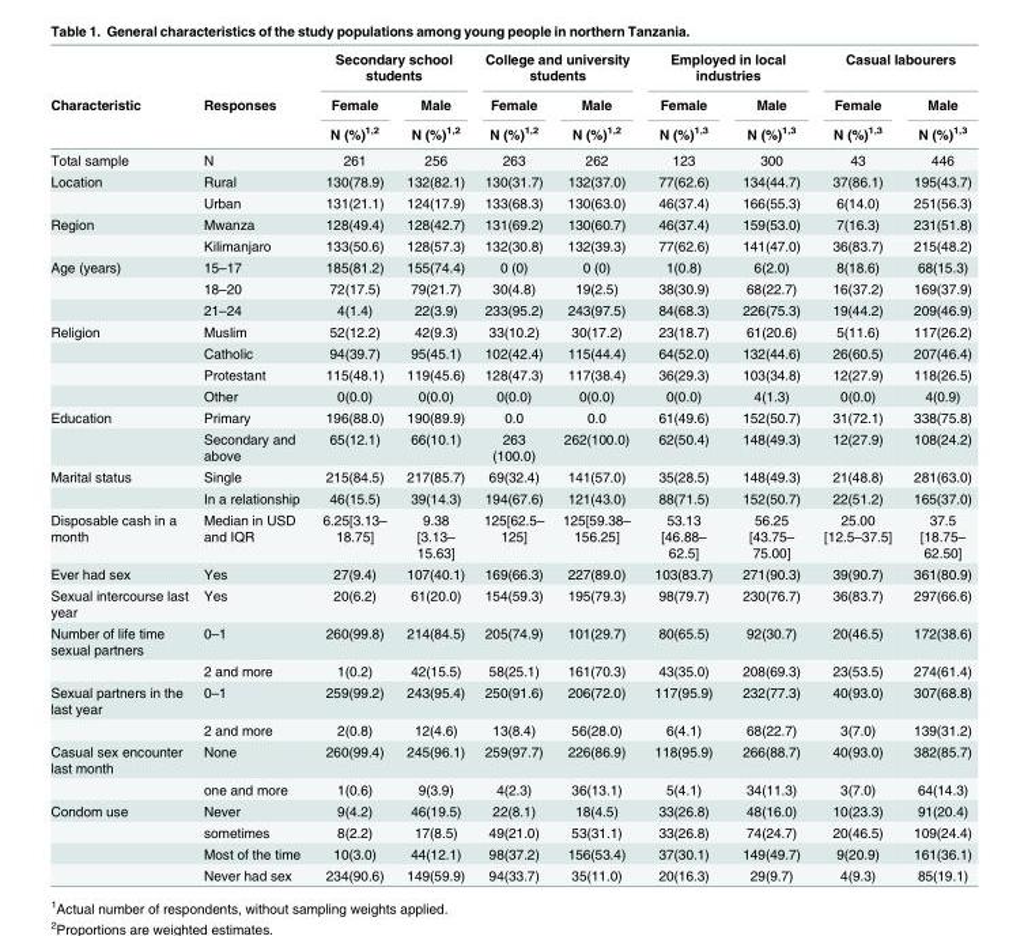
<table><thead><tr><td rowspan="3">Characteristic</td><td rowspan="3">Responses</td><td colspan="2">Secondary school students</td><td colspan="2">College and university students</td><td colspan="2">Employed in local industries</td><td colspan="2">Casual labourers</td></tr><tr><td rowspan="2">Female N (%)<sup>1,2</sup></td><td rowspan="2">Male N (%)<sup>1,2</sup></td><td rowspan="2">Female N (%)<sup>1,2</sup></td><td rowspan="2">Male N (%)<sup>1,2</sup></td><td rowspan="2">Female N (%)<sup>1,3</sup></td><td rowspan="2">Male N (%)<sup>1,3</sup></td><td rowspan="2">Female N (%)<sup>1,3</sup></td><td rowspan="2">Male N (%)<sup>1,3</sup></td></tr><tr></tr></thead><tbody><tr><td>Total sample</td><td>N</td><td>261</td><td>256</td><td>263</td><td>262</td><td>123</td><td>300</td><td>43</td><td>446</td></tr><tr><td rowspan="2">Location</td><td>Rural</td><td>130(78.9)</td><td>132(82.1)</td><td>130(31.7)</td><td>132(37.0)</td><td>77(62.6)</td><td>134(44.7)</td><td>37(86.1)</td><td>195(43.7)</td></tr><tr><td>Urban</td><td>131(21.1)</td><td>124(17.9)</td><td>133(68.3)</td><td>130(63.0)</td><td>46(37.4)</td><td>166(55.3)</td><td>6(14.0)</td><td>251(56.3)</td></tr><tr><td rowspan="2">Region</td><td>Mwanza</td><td>128(49.4)</td><td>128(42.7)</td><td>131(69.2)</td><td>130(60.7)</td><td>46(37.4)</td><td>159(53.0)</td><td>7(16.3)</td><td>231(51.8)</td></tr><tr><td>Kilimanjaro</td><td>133(50.6)</td><td>128(57.3)</td><td>132(30.8)</td><td>132(39.3)</td><td>77(62.6)</td><td>141(47.0)</td><td>36(83.7)</td><td>215(48.2)</td></tr><tr><td rowspan="3">Age (years)</td><td>15–17</td><td>185(81.2)</td><td>155(74.4)</td><td>0 (0)</td><td>0 (0)</td><td>1(0.8)</td><td>6(2.0)</td><td>8(18.6)</td><td>68(15.3)</td></tr><tr><td>18–20</td><td>72(17.5)</td><td>79(21.7)</td><td>30(4.8)</td><td>19(2.5)</td><td>38(30.9)</td><td>68(22.7)</td><td>16(37.2)</td><td>169(37.9)</td></tr><tr><td>21–24</td><td>4(1.4)</td><td>22(3.9)</td><td>233(95.2)</td><td>243(97.5)</td><td>84(68.3)</td><td>226(75.3)</td><td>19(44.2)</td><td>209(46.9)</td></tr><tr><td rowspan="4">Religion</td><td>Muslim</td><td>52(12.2)</td><td>42(9.3)</td><td>33(10.2)</td><td>30(17.2)</td><td>23(18.7)</td><td>61(20.6)</td><td>5(11.6)</td><td>117(26.2)</td></tr><tr><td>Catholic</td><td>94(39.7)</td><td>95(45.1)</td><td>102(42.4)</td><td>115(44.4)</td><td>64(52.0)</td><td>132(44.6)</td><td>26(60.5)</td><td>207(46.4)</td></tr><tr><td>Protestant</td><td>115(48.1)</td><td>119(45.6)</td><td>128(47.3)</td><td>117(38.4)</td><td>36(29.3)</td><td>103(34.8)</td><td>12(27.9)</td><td>118(26.5)</td></tr><tr><td>Other</td><td>0(0.0)</td><td>0(0.0)</td><td>0(0.0)</td><td>0(0.0)</td><td>0(0.0)</td><td>4(1.3)</td><td>0(0.0)</td><td>4(0.9)</td></tr><tr><td rowspan="2">Education</td><td>Primary</td><td>196(88.0)</td><td>190(89.9)</td><td>0.0</td><td>0.0</td><td>61(49.6)</td><td>152(50.7)</td><td>31(72.1)</td><td>338(75.8)</td></tr><tr><td>Secondary and above</td><td>65(12.1)</td><td>66(10.1)</td><td>263 (100.0)</td><td>262(100.0)</td><td>62(50.4)</td><td>148(49.3)</td><td>12(27.9)</td><td>108(24.2)</td></tr><tr><td rowspan="2">Marital status</td><td>Single</td><td>215(84.5)</td><td>217(85.7)</td><td>69(32.4)</td><td>141(57.0)</td><td>35(28.5)</td><td>148(49.3)</td><td>21(48.8)</td><td>281(63.0)</td></tr><tr><td>In a relationship</td><td>46(15.5)</td><td>39(14.3)</td><td>194(67.6)</td><td>121(43.0)</td><td>88(71.5)</td><td>152(50.7)</td><td>22(51.2)</td><td>165(37.0)</td></tr><tr><td>Disposable cash in a month</td><td>Median in USD and IQR</td><td>6.25[3.13– 18.75]</td><td>9.38 [3.13– 15.63]</td><td>125[62.5– 125]</td><td>125[59.38– 156.25]</td><td>53.13 [46.88– 62.5]</td><td>56.25 [43.75– 75.00]</td><td>25.00 [12.5–37.5]</td><td>37.5 [18.75– 62.50]</td></tr><tr><td>Ever had sex</td><td>Yes</td><td>27(9.4)</td><td>107(40.1)</td><td>169(66.3)</td><td>227(89.0)</td><td>103(83.7)</td><td>271(90.3)</td><td>39(90.7)</td><td>361(80.9)</td></tr><tr><td>Sexual intercourse last year</td><td>Yes</td><td>20(6.2)</td><td>61(20.0)</td><td>154(59.3)</td><td>195(79.3)</td><td>98(79.7)</td><td>230(76.7)</td><td>36(83.7)</td><td>297(66.6)</td></tr><tr><td rowspan="2">Number of life time sexual partners</td><td>0–1</td><td>260(99.8)</td><td>214(84.5)</td><td>205(74.9)</td><td>101(29.7)</td><td>80(65.5)</td><td>92(30.7)</td><td>20(46.5)</td><td>172(38.6)</td></tr><tr><td>2 and more</td><td>1(0.2)</td><td>42(15.5)</td><td>58(25.1)</td><td>161(70.3)</td><td>43(35.0)</td><td>208(69.3)</td><td>23(53.5)</td><td>274(61.4)</td></tr><tr><td rowspan="2">Sexual partners in the last year</td><td>0–1</td><td>259(99.2)</td><td>243(95.4)</td><td>250(91.6)</td><td>206(72.0)</td><td>117(95.9)</td><td>232(77.3)</td><td>40(93.0)</td><td>307(68.8)</td></tr><tr><td>2 and more</td><td>2(0.8)</td><td>12(4.6)</td><td>13(8.4)</td><td>56(28.0)</td><td>6(4.1)</td><td>68(22.7)</td><td>3(7.0)</td><td>139(31.2)</td></tr><tr><td rowspan="2">Casual sex encounter last month</td><td>None</td><td>260(99.4)</td><td>245(96.1)</td><td>259(97.7)</td><td>226(86.9)</td><td>118(95.9)</td><td>266(88.7)</td><td>40(93.0)</td><td>382(85.7)</td></tr><tr><td>one and more</td><td>1(0.6)</td><td>9(3.9)</td><td>4(2.3)</td><td>36(13.1)</td><td>5(4.1)</td><td>34(11.3)</td><td>3(7.0)</td><td>64(14.3)</td></tr><tr><td rowspan="4">Condom use</td><td>Never</td><td>9(4.2)</td><td>46(19.5)</td><td>22(8.1)</td><td>18(4.5)</td><td>33(26.8)</td><td>48(16.0)</td><td>10(23.3)</td><td>91(20.4)</td></tr><tr><td>sometimes</td><td>8(2.2)</td><td>17(8.5)</td><td>49(21.0)</td><td>53(31.1)</td><td>33(26.8)</td><td>74(24.7)</td><td>20(46.5)</td><td>109(24.4)</td></tr><tr><td>Most of the time</td><td>10(3.0)</td><td>44(12.1)</td><td>98(37.2)</td><td>156(53.4)</td><td>37(30.1)</td><td>149(49.7)</td><td>9(20.9)</td><td>161(36.1)</td></tr><tr><td>Never had sex</td><td>234(90.6)</td><td>149(59.9)</td><td>94(33.7)</td><td>35(11.0)</td><td>20(16.3)</td><td>29(9.7)</td><td>4(9.3)</td><td>85(19.1)</td></tr></tbody></table>